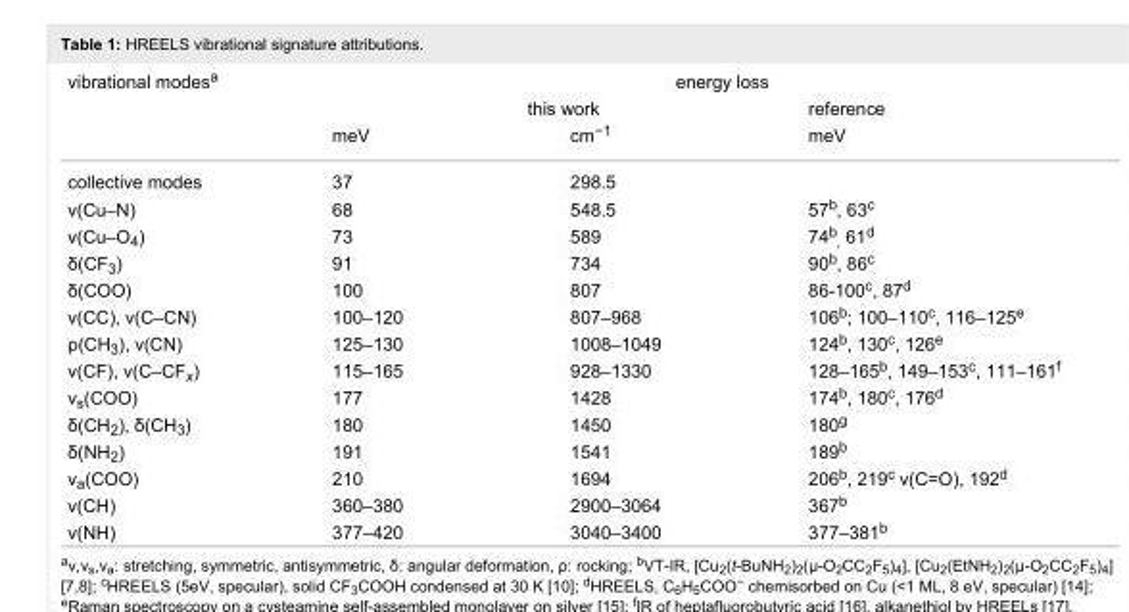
<table><tbody><tr><td rowspan="3">vibrational modes<sup>a</sup></td><td colspan="3">energy loss</td></tr><tr><td colspan="2">this work</td><td>reference</td></tr><tr><td>meV</td><td>cm<sup>−1</sup></td><td>meV</td></tr><tr><td>collective modes</td><td>37</td><td>298.5</td><td></td></tr><tr><td>ν(Cu–N)</td><td>68</td><td>548.5</td><td>57<sup>b</sup>, 63<sup>c</sup></td></tr><tr><td>ν(Cu–O<sub>4</sub>)</td><td>73</td><td>589</td><td>74<sup>b</sup><sub>,</sub> 61<sup>d</sup></td></tr><tr><td>δ(CF<sub>3</sub>)</td><td>91</td><td>734</td><td>90<sup>b</sup>, 86<sup>c</sup></td></tr><tr><td>δ(COO)</td><td>100</td><td>807</td><td>86-100<sup>c</sup>, 87<sup>d</sup></td></tr><tr><td>ν(CC), ν(C–CN)</td><td>100–120</td><td>807–968</td><td>106<sup>b</sup>; 100–110<sup>c</sup>, 116–125<sup>e</sup></td></tr><tr><td>ρ(CH<sub>3</sub>), ν(CN)</td><td>125–130</td><td>1008–1049</td><td>124<sup>b</sup>, 130<sup>c</sup>, 126<sup>e</sup></td></tr><tr><td>ν(CF), ν(C–CF<sub>x</sub>)</td><td>115–165</td><td>928–1330</td><td>128–165<sup>b</sup>, 149–153<sup>c</sup>, 111–161<sup>f</sup></td></tr><tr><td>ν<sub>s</sub>(COO)</td><td>177</td><td>1428</td><td>174<sup>b</sup>, 180<sup>c</sup>, 176<sup>d</sup></td></tr><tr><td>δ(CH<sub>2</sub>), δ(CH<sub>3</sub>)</td><td>180</td><td>1450</td><td>180<sup>g</sup></td></tr><tr><td>δ(NH<sub>2</sub>)</td><td>191</td><td>1541</td><td>189<sup>b</sup></td></tr><tr><td>ν<sub>a</sub>(COO)</td><td>210</td><td>1694</td><td>206<sup>b</sup>, 219<sup>c</sup> ν(C=O), 192<sup>d</sup></td></tr><tr><td>ν(CH)</td><td>360–380</td><td>2900–3064</td><td>367<sup>b</sup></td></tr><tr><td>ν(NH)</td><td>377–420</td><td>3040–3400</td><td>377–381<sup>b</sup></td></tr></tbody></table>